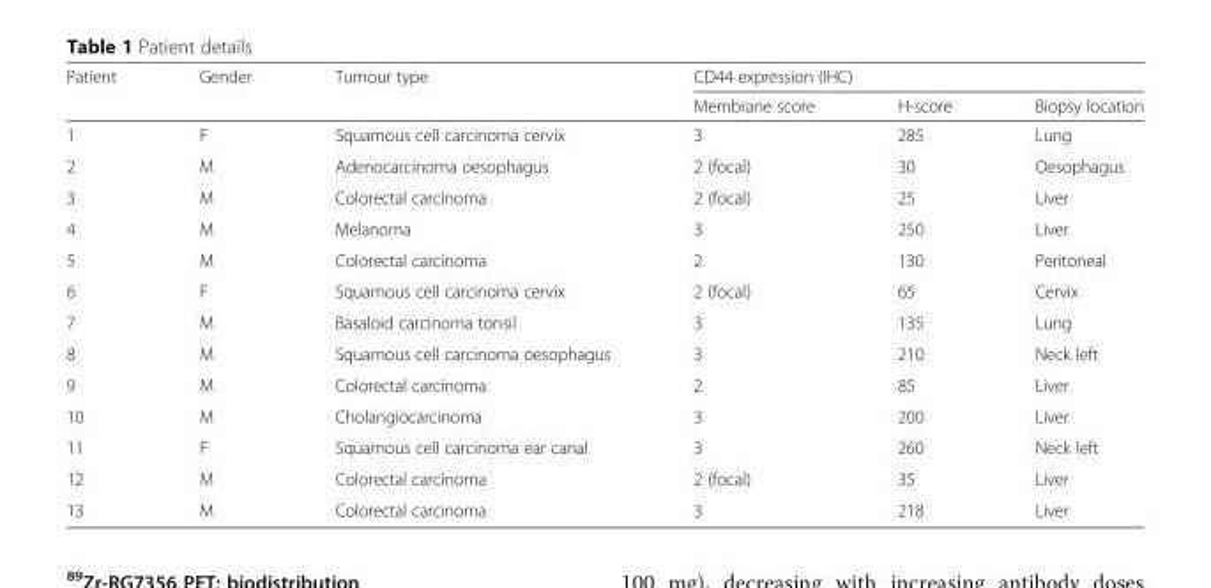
<table><thead><tr><td rowspan="2">Patient</td><td rowspan="2">Gender</td><td rowspan="2">Tumour type</td><td colspan="3">CD44 expression (IHC)</td></tr><tr><td>Membrane score</td><td>H-score</td><td>Biopsy location</td></tr></thead><tbody><tr><td>1</td><td>F</td><td>Squamous cell carcinoma cervix</td><td>3</td><td>285</td><td>Lung</td></tr><tr><td>2</td><td>M</td><td>Adenocarcinoma oesophagus</td><td>2 (focal)</td><td>30</td><td>Oesophagus</td></tr><tr><td>3</td><td>M</td><td>Colorectal carcinoma</td><td>2 (focal)</td><td>25</td><td>Liver</td></tr><tr><td>4</td><td>M</td><td>Melanoma</td><td>3</td><td>250</td><td>Liver</td></tr><tr><td>5</td><td>M</td><td>Colorectal carcinoma</td><td>2</td><td>130</td><td>Peritoneal</td></tr><tr><td>6</td><td>F</td><td>Squamous cell carcinoma cervix</td><td>2 (focal)</td><td>65</td><td>Cervix</td></tr><tr><td>7</td><td>M</td><td>Basaloid carcinoma tonsil</td><td>3</td><td>135</td><td>Lung</td></tr><tr><td>8</td><td>M</td><td>Squamous cell carcinoma oesophagus</td><td>3</td><td>210</td><td>Neck left</td></tr><tr><td>9</td><td>M</td><td>Colorectal carcinoma</td><td>2</td><td>85</td><td>Liver</td></tr><tr><td>10</td><td>M</td><td>Cholangiocarcinoma</td><td>3</td><td>200</td><td>Liver</td></tr><tr><td>11</td><td>F</td><td>Squamous cell carcinoma ear canal</td><td>3</td><td>260</td><td>Neck left</td></tr><tr><td>12</td><td>M</td><td>Colorectal carcinoma</td><td>2 (focal)</td><td>35</td><td>Liver</td></tr><tr><td>13</td><td>M</td><td>Colorectal carcinoma</td><td>3</td><td>218</td><td>Liver</td></tr></tbody></table>